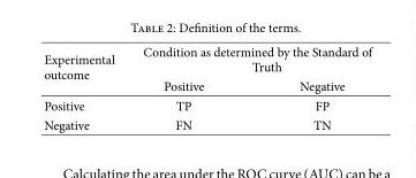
<table><thead><tr><td rowspan="2">Experimental outcome</td><td colspan="2">Condition as determined by the Standard of Truth</td></tr><tr><td>Positive</td><td>Negative</td></tr></thead><tbody><tr><td>Positive</td><td>TP</td><td>FP</td></tr><tr><td>Negative</td><td>FN</td><td>TN</td></tr></tbody></table>